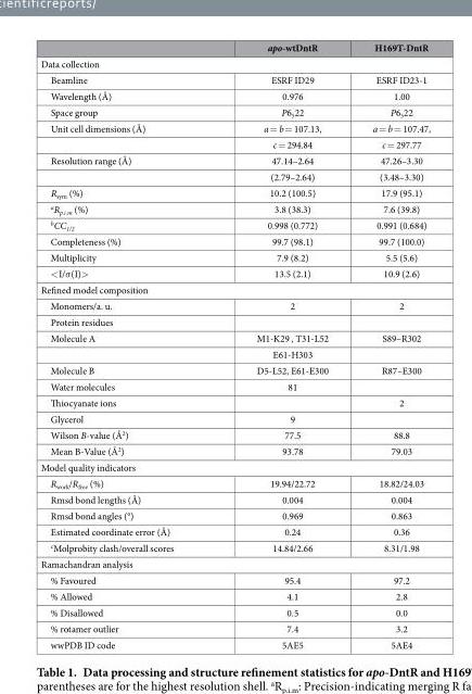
<table><thead><tr><td></td><td>apo-wtDntR</td><td>H169T-DntR</td></tr></thead><tbody><tr><td colspan="3">Data collection</td></tr><tr><td>Beamline</td><td>ESRF ID29</td><td>ESRF ID23-1</td></tr><tr><td>Wavelength (Å)</td><td>0.976</td><td>1.00</td></tr><tr><td>Space group</td><td>P6<sub>5</sub>22</td><td>P6<sub>5</sub>22</td></tr><tr><td rowspan="2">Unit cell dimensions (Å)</td><td>a = b = 107.13,</td><td>a = b = 107.47,</td></tr><tr><td>c = 294.84</td><td>c = 297.77</td></tr><tr><td rowspan="2">Resolution range (Å)</td><td>47.14–2.64</td><td>47.26–3.30</td></tr><tr><td>(2.79–2.64)</td><td>(3.48–3.30)</td></tr><tr><td>R<sub>sym</sub> (%)</td><td>10.2 (100.5)</td><td>17.9 (95.1)</td></tr><tr><td>aR<sub>p.i.m</sub> (%)</td><td>3.8 (38.3)</td><td>7.6 (39.8)</td></tr><tr><td>bCC<sub>1/2</sub></td><td>0.998 (0.772)</td><td>0.991 (0.684)</td></tr><tr><td>Completeness (%)</td><td>99.7 (98.1)</td><td>99.7 (100.0)</td></tr><tr><td>Multiplicity</td><td>7.9 (8.2)</td><td>5.5 (5.6)</td></tr><tr><td>&lt; I/σ (I)&gt;</td><td>13.5 (2.1)</td><td>10.9 (2.6)</td></tr><tr><td colspan="3">Refined model composition</td></tr><tr><td>Monomers/a. u.</td><td>2</td><td>2</td></tr><tr><td colspan="3">Protein residues</td></tr><tr><td rowspan="2">Molecule A</td><td>M1-K29 , T31-L52</td><td>S89–R302</td></tr><tr><td>E61-H303</td><td></td></tr><tr><td>Molecule B</td><td>D5-L52, E61-E300</td><td>R87–E300</td></tr><tr><td>Water molecules</td><td>81</td><td></td></tr><tr><td>Thiocyanate ions</td><td></td><td>2</td></tr><tr><td>Glycerol</td><td>9</td><td></td></tr><tr><td>Wilson B-value (Å<sup>2</sup>)</td><td>77.5</td><td>88.8</td></tr><tr><td>Mean B-Value (Å<sup>2</sup>)</td><td>93.78</td><td>79.03</td></tr><tr><td colspan="3">Model quality indicators</td></tr><tr><td>R<sub>work</sub>/R<sub>free</sub> (%)</td><td>19.94/22.72</td><td>18.82/24.03</td></tr><tr><td>Rmsd bond lengths (Å)</td><td>0.004</td><td>0.004</td></tr><tr><td>Rmsd bond angles (°)</td><td>0.969</td><td>0.863</td></tr><tr><td>Estimated coordinate error (Å)</td><td>0.24</td><td>0.36</td></tr><tr><td><sup>c</sup>Molprobity clash/overall scores</td><td>14.84/2.66</td><td>8.31/1.98</td></tr><tr><td colspan="3">Ramachandran analysis</td></tr><tr><td>% Favoured</td><td>95.4</td><td>97.2</td></tr><tr><td>% Allowed</td><td>4.1</td><td>2.8</td></tr><tr><td>% Disallowed</td><td>0.5</td><td>0.0</td></tr><tr><td>% rotamer outlier</td><td>7.4</td><td>3.2</td></tr><tr><td>wwPDB ID code</td><td>5AE5</td><td>5AE4</td></tr></tbody></table>